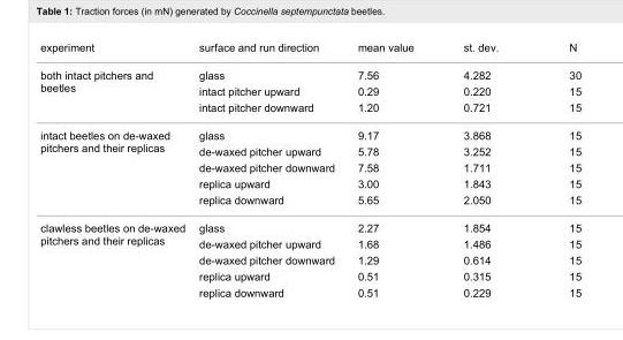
<table><tbody><tr><td>experiment</td><td>surface and run direction</td><td>mean value</td><td>st. dev.</td><td>N</td></tr><tr><td rowspan="3">both intact pitchers and beetles</td><td>glass</td><td>7.56</td><td>4.282</td><td>30</td></tr><tr><td>intact pitcher upward</td><td>0.29</td><td>0.220</td><td>15</td></tr><tr><td>intact pitcher downward</td><td>1.20</td><td>0.721</td><td>15</td></tr><tr><td rowspan="5">intact beetles on de-waxed pitchers and their replicas</td><td>glass</td><td>9.17</td><td>3.868</td><td>15</td></tr><tr><td>de-waxed pitcher upward</td><td>5.78</td><td>3.252</td><td>15</td></tr><tr><td>de-waxed pitcher downward</td><td>7.58</td><td>1.711</td><td>15</td></tr><tr><td>replica upward</td><td>3.00</td><td>1.843</td><td>15</td></tr><tr><td>replica downward</td><td>5.65</td><td>2.050</td><td>15</td></tr><tr><td rowspan="5">clawless beetles on de-waxed pitchers and their replicas</td><td>glass</td><td>2.27</td><td>1.854</td><td>15</td></tr><tr><td>de-waxed pitcher upward</td><td>1.68</td><td>1.486</td><td>15</td></tr><tr><td>de-waxed pitcher downward</td><td>1.29</td><td>0.614</td><td>15</td></tr><tr><td>replica upward</td><td>0.51</td><td>0.315</td><td>15</td></tr><tr><td>replica downward</td><td>0.51</td><td>0.229</td><td>15</td></tr></tbody></table>